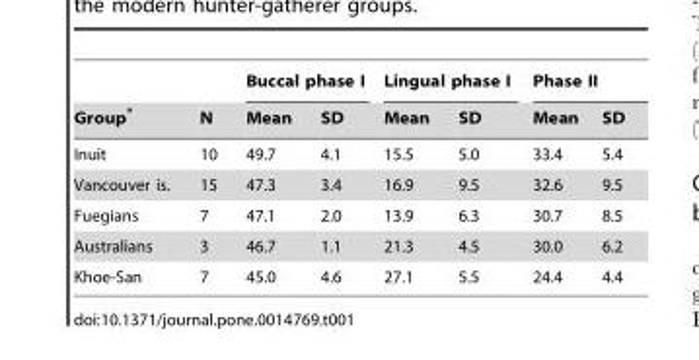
<table><thead><tr><td rowspan="2">Group*</td><td rowspan="2">N</td><td colspan="2">Buccal phase I</td><td colspan="2">Lingual phase I</td><td colspan="2">Phase II</td></tr><tr><td>Mean</td><td>SD</td><td>Mean</td><td>SD</td><td>Mean</td><td>SD</td></tr></thead><tbody><tr><td>Inuit</td><td>10</td><td>49.7</td><td>4.1</td><td>15.5</td><td>5.0</td><td>33.4</td><td>5.4</td></tr><tr><td>Vancouver is.</td><td>15</td><td>47.3</td><td>3.4</td><td>16.9</td><td>9.5</td><td>32.6</td><td>9.5</td></tr><tr><td>Fuegians</td><td>7</td><td>47.1</td><td>2.0</td><td>13.9</td><td>6.3</td><td>30.7</td><td>8.5</td></tr><tr><td>Australians</td><td>3</td><td>46.7</td><td>1.1</td><td>21.3</td><td>4.5</td><td>30.0</td><td>6.2</td></tr><tr><td>Khoe-San</td><td>7</td><td>45.0</td><td>4.6</td><td>27.1</td><td>5.5</td><td>24.4</td><td>4.4</td></tr></tbody></table>